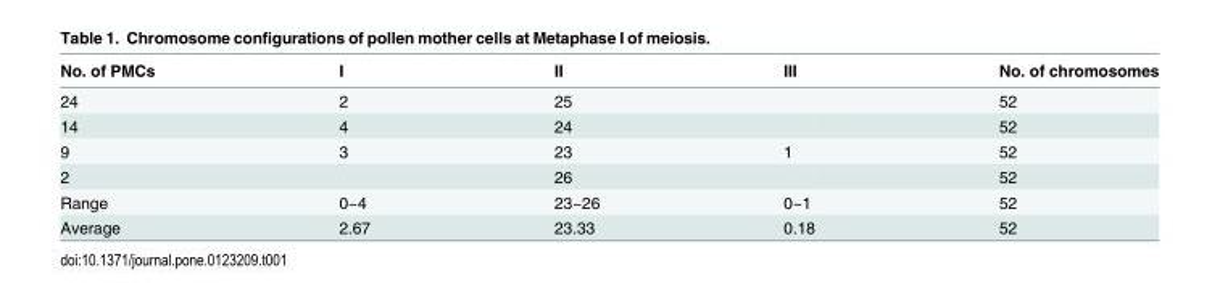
<table><thead><tr><td>No. of PMCs</td><td>I</td><td>II</td><td>III</td><td>No. of chromosomes</td></tr></thead><tbody><tr><td>24</td><td>2</td><td>25</td><td></td><td>52</td></tr><tr><td>14</td><td>4</td><td>24</td><td></td><td>52</td></tr><tr><td>9</td><td>3</td><td>23</td><td>1</td><td>52</td></tr><tr><td>2</td><td></td><td>26</td><td></td><td>52</td></tr><tr><td>Range</td><td>0~4</td><td>23~26</td><td>0~1</td><td>52</td></tr><tr><td>Average</td><td>2.67</td><td>23.33</td><td>0.18</td><td>52</td></tr></tbody></table>